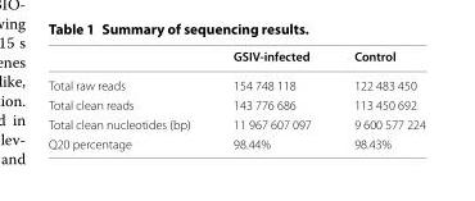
<table><thead><tr><td></td><td>GSIV‑infected</td><td>Control</td></tr></thead><tbody><tr><td>Total raw reads</td><td>154 748 118</td><td>122 483 450</td></tr><tr><td>Total clean reads</td><td>143 776 686</td><td>113 450 692</td></tr><tr><td>Total clean nucleotides (bp)</td><td>11 967 607 097</td><td>9 600 577 224</td></tr><tr><td>Q20 percentage</td><td>98.44%</td><td>98.43%</td></tr></tbody></table>